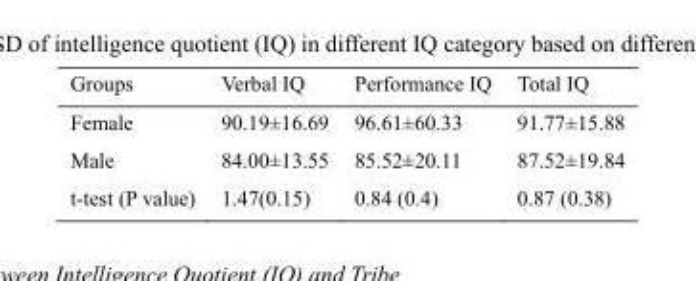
<table><thead><tr><td>Groups</td><td>Verbal IQ</td><td>Performance IQ</td><td>Total IQ</td></tr></thead><tbody><tr><td>Female</td><td>90.19±16.69</td><td>96.61±60.33</td><td>91.77±15.88</td></tr><tr><td>Male</td><td>84.00±13.55</td><td>85.52±20.11</td><td>87.52±19.84</td></tr><tr><td>t-test (P value)</td><td>1.47(0.15)</td><td>0.84 (0.4)</td><td>0.87 (0.38)</td></tr></tbody></table>